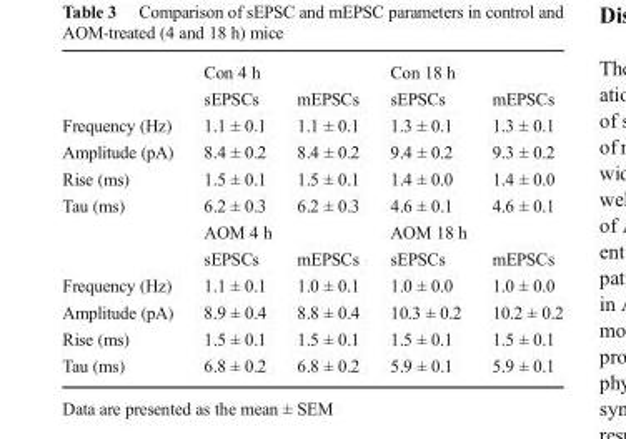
<table><thead><tr><td rowspan="2"></td><td colspan="2">Con 4 h</td><td colspan="2">Con 18 h</td></tr><tr><td>sEPSCs</td><td>mEPSCs</td><td>sEPSCs</td><td>mEPSCs</td></tr></thead><tbody><tr><td>Frequency (Hz)</td><td>1.1 ± 0.1</td><td>1.1 ± 0.1</td><td>1.3 ± 0.1</td><td>1.3 ± 0.1</td></tr><tr><td>Amplitude (pA)</td><td>8.4 ± 0.2</td><td>8.4 ± 0.2</td><td>9.4 ± 0.2</td><td>9.3 ± 0.2</td></tr><tr><td>Rise (ms)</td><td>1.5 ± 0.1</td><td>1.5 ± 0.1</td><td>1.4 ± 0.0</td><td>1.4 ± 0.0</td></tr><tr><td rowspan="3">Tau (ms)</td><td>6.2 ± 0.3</td><td>6.2 ± 0.3</td><td>4.6 ± 0.1</td><td>4.6 ± 0.1</td></tr><tr><td colspan="2">AOM 4 h</td><td colspan="2">AOM 18 h</td></tr><tr><td>sEPSCs</td><td>mEPSCs</td><td>sEPSCs</td><td>mEPSCs</td></tr><tr><td>Frequency (Hz)</td><td>1.1 ± 0.1</td><td>1.0 ± 0.1</td><td>1.0 ± 0.0</td><td>1.0 ± 0.0</td></tr><tr><td>Amplitude (pA)</td><td>8.9 ± 0.4</td><td>8.8 ± 0.4</td><td>10.3 ± 0.2</td><td>10.2 ± 0.2</td></tr><tr><td>Rise (ms)</td><td>1.5 ± 0.1</td><td>1.5 ± 0.1</td><td>1.5 ± 0.1</td><td>1.5 ± 0.1</td></tr><tr><td>Tau (ms)</td><td>6.8 ± 0.2</td><td>6.8 ± 0.2</td><td>5.9 ± 0.1</td><td>5.9 ± 0.1</td></tr></tbody></table>